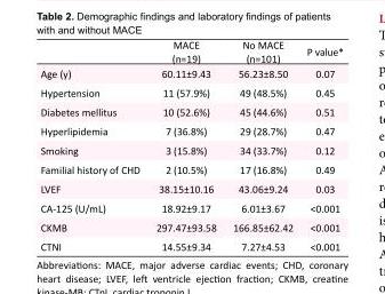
<table><thead><tr><td></td><td>MACE (n=19)</td><td>No MACE (n=101)</td><td>P value*</td></tr></thead><tbody><tr><td>Age (y)</td><td>60.11±9.43</td><td>56.23±8.50</td><td>0.07</td></tr><tr><td>Hypertension</td><td>11 (57.9%)</td><td>49 (48.5%)</td><td>0.45</td></tr><tr><td>Diabetes mellitus</td><td>10 (52.6%)</td><td>45 (44.6%)</td><td>0.51</td></tr><tr><td>Hyperlipidemia</td><td>7 (36.8%)</td><td>29 (28.7%)</td><td>0.47</td></tr><tr><td>Smoking</td><td>3 (15.8%)</td><td>34 (33.7%)</td><td>0.12</td></tr><tr><td>Familial history of CHD</td><td>2 (10.5%)</td><td>17 (16.8%)</td><td>0.49</td></tr><tr><td>LVEF</td><td>38.15±10.16</td><td>43.06±9.24</td><td>0.03</td></tr><tr><td>CA-125 (U/mL)</td><td>18.92±9.17</td><td>6.01±3.67</td><td>&lt;0.001</td></tr><tr><td>CKMB</td><td>297.47±93.58</td><td>166.85±62.42</td><td>&lt;0.001</td></tr><tr><td>CTNI</td><td>14.55±9.34</td><td>7.27±4.53</td><td>&lt;0.001</td></tr></tbody></table>